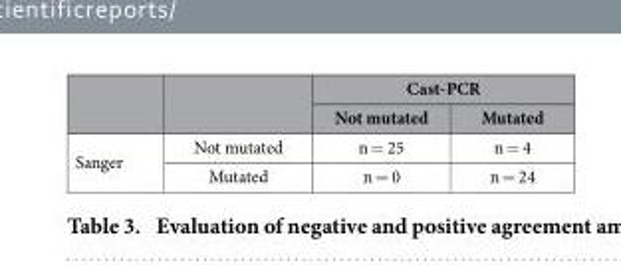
<table><thead><tr><td rowspan="2"></td><td rowspan="2"></td><td colspan="2">Cast-PCR</td></tr><tr><td>Not mutated</td><td>Mutated</td></tr></thead><tbody><tr><td rowspan="2">Sanger</td><td>Not mutated</td><td>n = 25</td><td>n = 4</td></tr><tr><td>Mutated</td><td>n = 0</td><td>n = 24</td></tr></tbody></table>